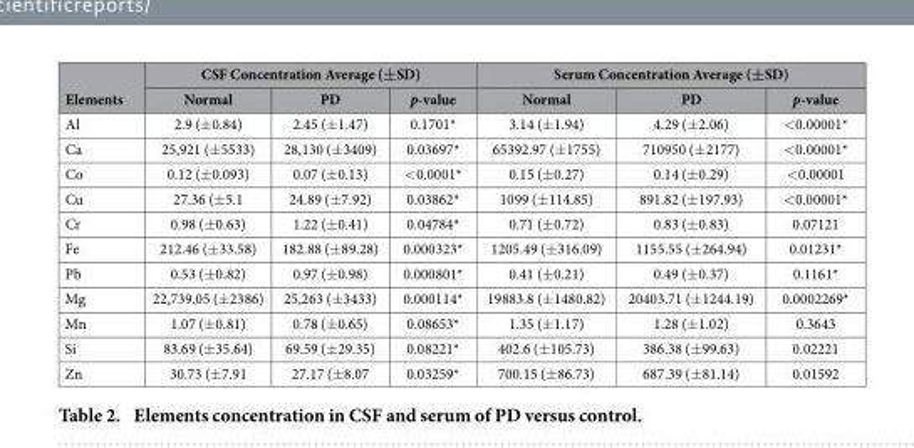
<table><thead><tr><td rowspan="2">Elements</td><td colspan="3">CSF Concentration Average (±SD)</td><td colspan="3">Serum Concentration Average (±SD)</td></tr><tr><td>Normal</td><td>PD</td><td>p-value</td><td>Normal</td><td>PD</td><td>p-value</td></tr></thead><tbody><tr><td>Al</td><td>2.9 (± 0.84)</td><td>2.45 (± 1.47)</td><td>0.1701*</td><td>3.14 (± 1.94)</td><td>4.29 (± 2.06)</td><td>&lt; 0.00001*</td></tr><tr><td>Ca</td><td>25,921 (± 5533)</td><td>28,130 (± 3409)</td><td>0.03697*</td><td>65392.97 (± 1755)</td><td>710950 (± 2177)</td><td>&lt; 0.00001*</td></tr><tr><td>Co</td><td>0.12 (± 0.093)</td><td>0.07 (± 0.13)</td><td>&lt; 0.0001*</td><td>0.15 (± 0.27)</td><td>0.14 (± 0.29)</td><td>&lt; 0.00001</td></tr><tr><td>Cu</td><td>27.36 (± 5.1</td><td>24.89 (± 7.92)</td><td>0.03862*</td><td>1099 (± 114.85)</td><td>891.82 (± 197.93)</td><td>&lt; 0.00001*</td></tr><tr><td>Cr</td><td>0.98 (± 0.63)</td><td>1.22 (± 0.41)</td><td>0.04784*</td><td>0.71 (± 0.72)</td><td>0.83 (± 0.83)</td><td>0.07121</td></tr><tr><td>Fe</td><td>212.46 (± 33.58)</td><td>182.88 (± 89.28)</td><td>0.000323*</td><td>1205.49 (± 316.09)</td><td>1155.55 (± 264.94)</td><td>0.01231*</td></tr><tr><td>Pb</td><td>0.53 (± 0.82)</td><td>0.97 (± 0.98)</td><td>0.000801*</td><td>0.41 (± 0.21)</td><td>0.49 (± 0.37)</td><td>0.1161*</td></tr><tr><td>Mg</td><td>22,739.05 (± 2386)</td><td>25,263 (± 3433)</td><td>0.000114*</td><td>19883.8 (± 1480.82)</td><td>20403.71 (± 1244.19)</td><td>0.0002269*</td></tr><tr><td>Mn</td><td>1.07 (± 0.81)</td><td>0.78 (± 0.65)</td><td>0.08653*</td><td>1.35 (± 1.17)</td><td>1.28 (± 1.02)</td><td>0.3643</td></tr><tr><td>Si</td><td>83.69 (± 35.64)</td><td>69.59 (± 29.35)</td><td>0.08221*</td><td>402.6 (± 105.73)</td><td>386.38 (± 99.63)</td><td>0.02221</td></tr><tr><td>Zn</td><td>30.73 (± 7.91</td><td>27.17 (± 8.07</td><td>0.03259*</td><td>700.15 (± 86.73)</td><td>687.39 (± 81.14)</td><td>0.01592</td></tr></tbody></table>